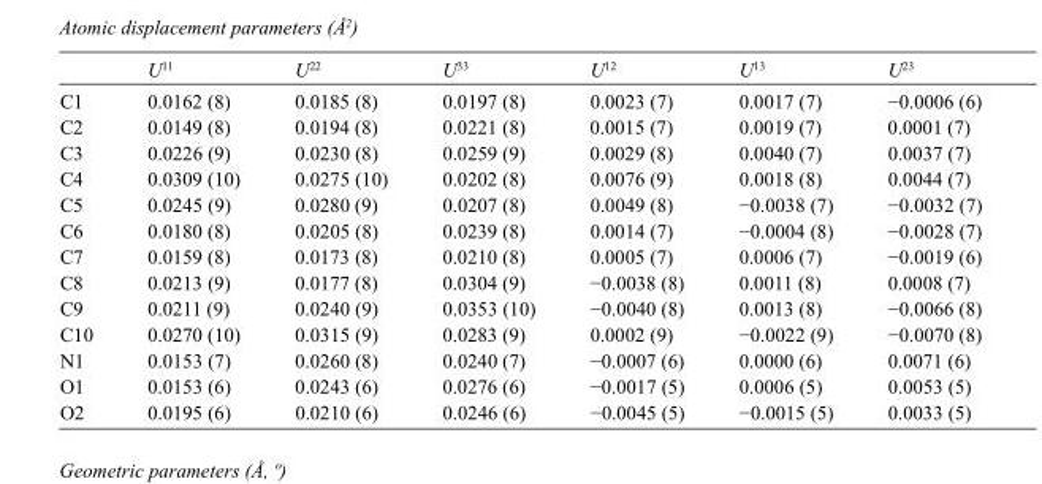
<table><thead><tr><td></td><td>U<sup>11</sup></td><td>U<sup>22</sup></td><td>U<sup>33</sup></td><td>U<sup>12</sup></td><td>U<sup>13</sup></td><td>U<sup>23</sup></td></tr></thead><tbody><tr><td>C1</td><td>0.0162 (8)</td><td>0.0185 (8)</td><td>0.0197 (8)</td><td>0.0023 (7)</td><td>0.0017 (7)</td><td>−0.0006 (6)</td></tr><tr><td>C2</td><td>0.0149 (8)</td><td>0.0194 (8)</td><td>0.0221 (8)</td><td>0.0015 (7)</td><td>0.0019 (7)</td><td>0.0001 (7)</td></tr><tr><td>C3</td><td>0.0226 (9)</td><td>0.0230 (8)</td><td>0.0259 (9)</td><td>0.0029 (8)</td><td>0.0040 (7)</td><td>0.0037 (7)</td></tr><tr><td>C4</td><td>0.0309 (10)</td><td>0.0275 (10)</td><td>0.0202 (8)</td><td>0.0076 (9)</td><td>0.0018 (8)</td><td>0.0044 (7)</td></tr><tr><td>C5</td><td>0.0245 (9)</td><td>0.0280 (9)</td><td>0.0207 (8)</td><td>0.0049 (8)</td><td>−0.0038 (7)</td><td>−0.0032 (7)</td></tr><tr><td>C6</td><td>0.0180 (8)</td><td>0.0205 (8)</td><td>0.0239 (8)</td><td>0.0014 (7)</td><td>−0.0004 (8)</td><td>−0.0028 (7)</td></tr><tr><td>C7</td><td>0.0159 (8)</td><td>0.0173 (8)</td><td>0.0210 (8)</td><td>0.0005 (7)</td><td>0.0006 (7)</td><td>−0.0019 (6)</td></tr><tr><td>C8</td><td>0.0213 (9)</td><td>0.0177 (8)</td><td>0.0304 (9)</td><td>−0.0038 (8)</td><td>0.0011 (8)</td><td>0.0008 (7)</td></tr><tr><td>C9</td><td>0.0211 (9)</td><td>0.0240 (9)</td><td>0.0353 (10)</td><td>−0.0040 (8)</td><td>0.0013 (8)</td><td>−0.0066 (8)</td></tr><tr><td>C10</td><td>0.0270 (10)</td><td>0.0315 (9)</td><td>0.0283 (9)</td><td>0.0002 (9)</td><td>−0.0022 (9)</td><td>−0.0070 (8)</td></tr><tr><td>N1</td><td>0.0153 (7)</td><td>0.0260 (8)</td><td>0.0240 (7)</td><td>−0.0007 (6)</td><td>0.0000 (6)</td><td>0.0071 (6)</td></tr><tr><td>O1</td><td>0.0153 (6)</td><td>0.0243 (6)</td><td>0.0276 (6)</td><td>−0.0017 (5)</td><td>0.0006 (5)</td><td>0.0053 (5)</td></tr><tr><td>O2</td><td>0.0195 (6)</td><td>0.0210 (6)</td><td>0.0246 (6)</td><td>−0.0045 (5)</td><td>−0.0015 (5)</td><td>0.0033 (5)</td></tr></tbody></table>